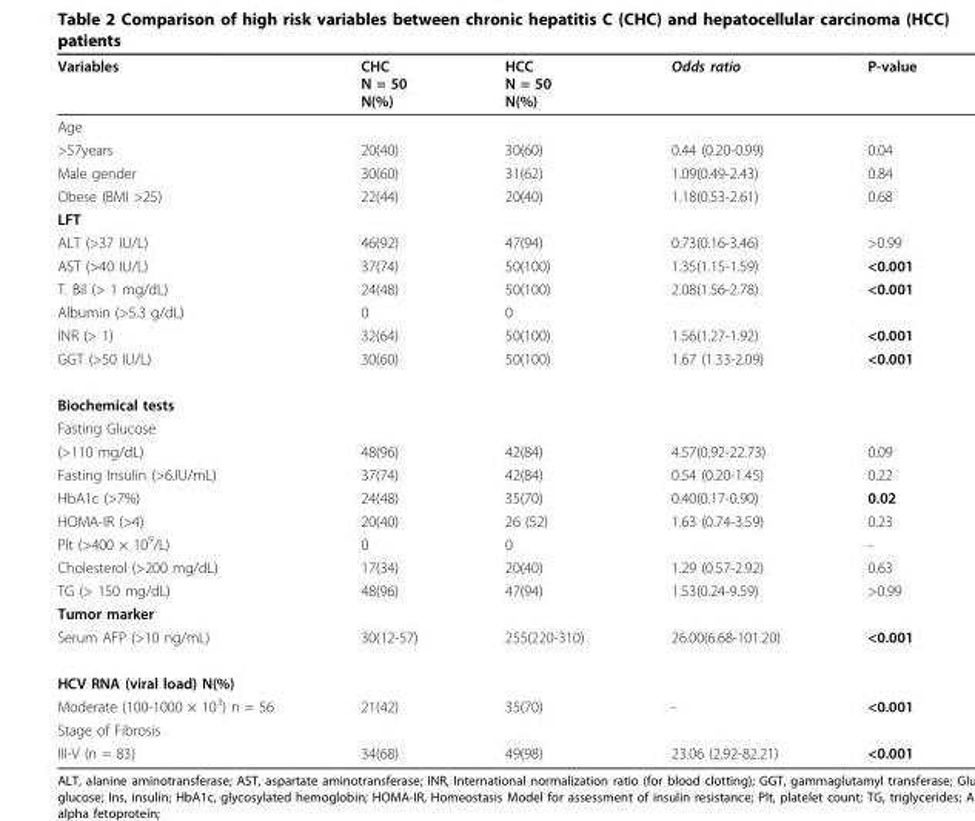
<table><thead><tr><td>Variables</td><td>CHC N = 50 N(%)</td><td>HCC N = 50 N(%)</td><td>Odds ratio</td><td>P-value</td></tr></thead><tbody><tr><td colspan="5">Age</td></tr><tr><td>&gt;57years</td><td>20(40)</td><td>30(60)</td><td>0.44 (0.20-0.99)</td><td>0.04</td></tr><tr><td>Male gender</td><td>30(60)</td><td>31(62)</td><td>1.09(0.49-2.43)</td><td>0.84</td></tr><tr><td>Obese (BMI &gt;25)</td><td>22(44)</td><td>20(40)</td><td>1.18(0.53-2.61)</td><td>0.68</td></tr><tr><td colspan="5">LFT</td></tr><tr><td>ALT (&gt;37 IU/L)</td><td>46(92)</td><td>47(94)</td><td>0.73(0.16-3.46)</td><td>&gt;0.99</td></tr><tr><td>AST (&gt;40 IU/L)</td><td>37(74)</td><td>50(100)</td><td>1.35(1.15-1.59)</td><td>&lt;0.001</td></tr><tr><td>T. Bil (&gt; 1 mg/dL)</td><td>24(48)</td><td>50(100)</td><td>2.08(1.56-2.78)</td><td>&lt;0.001</td></tr><tr><td>Albumin (&gt;5.3 g/dL)</td><td>0</td><td>0</td><td></td><td></td></tr><tr><td>INR (&gt; 1)</td><td>32(64)</td><td>50(100)</td><td>1.56(1.27-1.92)</td><td>&lt;0.001</td></tr><tr><td>GGT (&gt;50 IU/L)</td><td>30(60)</td><td>50(100)</td><td>1.67 (1.33-2.09)</td><td>&lt;0.001</td></tr><tr><td colspan="5">Biochemical tests</td></tr><tr><td colspan="5">Fasting Glucose</td></tr><tr><td>(&gt;110 mg/dL)</td><td>48(96)</td><td>42(84)</td><td>4.57(0.92-22.73)</td><td>0.09</td></tr><tr><td>Fasting Insulin (&gt;6.IU/mL)</td><td>37(74)</td><td>42(84)</td><td>0.54 (0.20-1.45)</td><td>0.22</td></tr><tr><td>HbA1c (&gt;7%)</td><td>24(48)</td><td>35(70)</td><td>0.40(0.17-0.90)</td><td>0.02</td></tr><tr><td>HOMA-IR (&gt;4)</td><td>20(40)</td><td>26 (52)</td><td>1.63 (0.74-3.59)</td><td>0.23</td></tr><tr><td>Plt (&gt;400 × 10<sup>9</sup>/L)</td><td>0</td><td>0</td><td></td><td>-</td></tr><tr><td>Cholesterol (&gt;200 mg/dL)</td><td>17(34)</td><td>20(40)</td><td>1.29 (0.57-2.92)</td><td>0.63</td></tr><tr><td>TG (&gt; 150 mg/dL)</td><td>48(96)</td><td>47(94)</td><td>1.53(0.24-9.59)</td><td>&gt;0.99</td></tr><tr><td colspan="5">Tumor marker</td></tr><tr><td>Serum AFP (&gt;10 ng/mL)</td><td>30(12-57)</td><td>255(220-310)</td><td>26.00(6.68-101.20)</td><td>&lt;0.001</td></tr><tr><td colspan="5">HCV RNA (viral load) N(%)</td></tr><tr><td>Moderate (100-1000 × 10<sup>3</sup>) n = 56</td><td>21(42)</td><td>35(70)</td><td>-</td><td>&lt;0.001</td></tr><tr><td colspan="5">Stage of Fibrosis</td></tr><tr><td>III-V (n = 83)</td><td>34(68)</td><td>49(98)</td><td>23.06 (2.92-82.21)</td><td>&lt;0.001</td></tr></tbody></table>